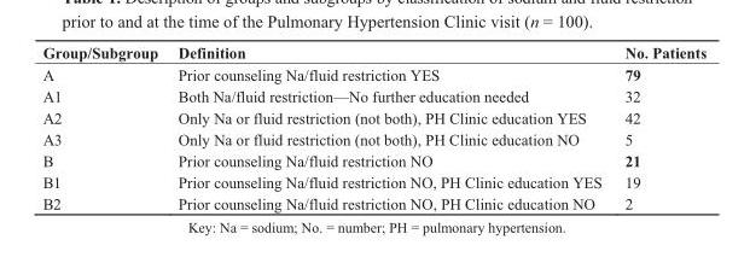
<table><thead><tr><td>Group/Subgroup</td><td>Definition</td><td>No. Patients</td></tr></thead><tbody><tr><td>A</td><td>Prior counseling Na/fluid restriction YES</td><td>79</td></tr><tr><td>A1</td><td>Both Na/fluid restriction—No further education needed</td><td>32</td></tr><tr><td>A2</td><td>Only Na or fluid restriction (not both), PH Clinic education YES</td><td>42</td></tr><tr><td>A3</td><td>Only Na or fluid restriction (not both), PH Clinic education NO</td><td>5</td></tr><tr><td>B</td><td>Prior counseling Na/fluid restriction NO</td><td>21</td></tr><tr><td>B1</td><td>Prior counseling Na/fluid restriction NO, PH Clinic education YES</td><td>19</td></tr><tr><td>B2</td><td>Prior counseling Na/fluid restriction NO, PH Clinic education NO</td><td>2</td></tr></tbody></table>